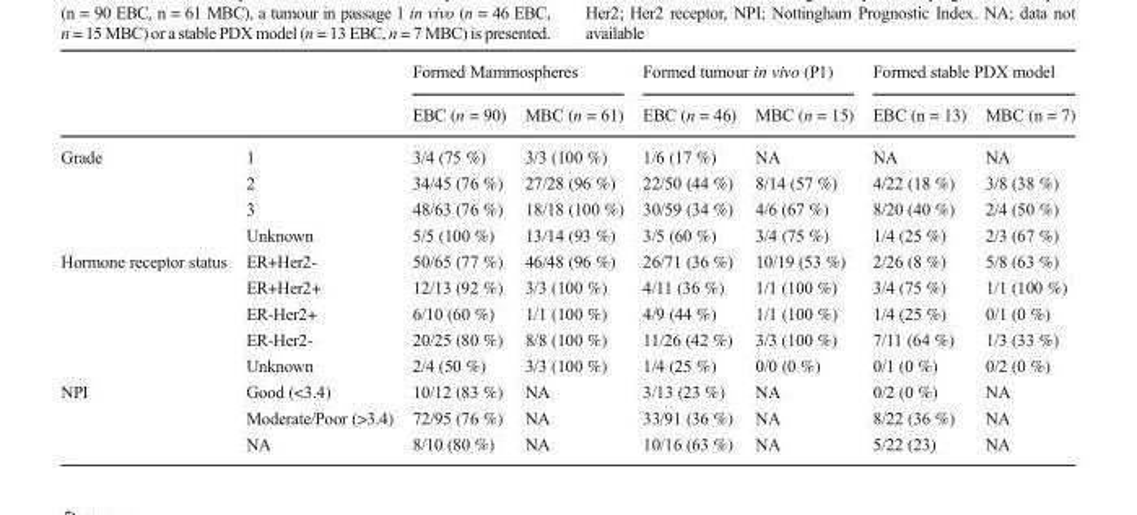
<table><thead><tr><td rowspan="2"></td><td rowspan="2"></td><td colspan="2">Formed Mammospheres</td><td colspan="2">Formed tumour in vivo (P1)</td><td colspan="2">Formed stable PDX model</td></tr><tr><td>EBC (n = 90)</td><td>MBC (n = 61)</td><td>EBC (n = 46)</td><td>MBC (n = 15)</td><td>EBC (n = 13)</td><td>MBC (n = 7)</td></tr></thead><tbody><tr><td rowspan="4">Grade</td><td>1</td><td>3/4 (75 %)</td><td>3/3 (100 %)</td><td>1/6 (17 %)</td><td>NA</td><td>NA</td><td>NA</td></tr><tr><td>2</td><td>34/45 (76 %)</td><td>27/28 (96 %)</td><td>22/50 (44 %)</td><td>8/14 (57 %)</td><td>4/22 (18 %)</td><td>3/8 (38 %)</td></tr><tr><td>3</td><td>48/63 (76 %)</td><td>18/18 (100 %)</td><td>30/59 (34 %)</td><td>4/6 (67 %)</td><td>8/20 (40 %)</td><td>2/4 (50 %)</td></tr><tr><td>Unknown</td><td>5/5 (100 %)</td><td>13/14 (93 %)</td><td>3/5 (60 %)</td><td>3/4 (75 %)</td><td>1/4 (25 %)</td><td>2/3 (67 %)</td></tr><tr><td rowspan="5">Hormone receptor status</td><td>ER+Her2-</td><td>50/65 (77 %)</td><td>46/48 (96 %)</td><td>26/71 (36 %)</td><td>10/19 (53 %)</td><td>2/26 (8 %)</td><td>5/8 (63 %)</td></tr><tr><td>ER+Her2+</td><td>12/13 (92 %)</td><td>3/3 (100 %)</td><td>4/11 (36 %)</td><td>1/1 (100 %)</td><td>3/4 (75 %)</td><td>1/1 (100 %)</td></tr><tr><td>ER-Her2+</td><td>6/10 (60 %)</td><td>1/1 (100 %)</td><td>4/9 (44 %)</td><td>1/1 (100 %)</td><td>1/4 (25 %)</td><td>0/1 (0 %)</td></tr><tr><td>ER-Her2-</td><td>20/25 (80 %)</td><td>8/8 (100 %)</td><td>11/26 (42 %)</td><td>3/3 (100 %)</td><td>7/11 (64 %)</td><td>1/3 (33 %)</td></tr><tr><td>Unknown</td><td>2/4 (50 %)</td><td>3/3 (100 %)</td><td>1/4 (25 %)</td><td>0/0 (0 %)</td><td>0/1 (0 %)</td><td>0/2 (0 %)</td></tr><tr><td rowspan="3">NPI</td><td>Good (&lt;3.4)</td><td>10/12 (83 %)</td><td>NA</td><td>3/13 (23 %)</td><td>NA</td><td>0/2 (0 %)</td><td>NA</td></tr><tr><td>Moderate/Poor (&gt;3.4)</td><td>72/95 (76 %)</td><td>NA</td><td>33/91 (36 %)</td><td>NA</td><td>8/22 (36 %)</td><td>NA</td></tr><tr><td>NA</td><td>8/10 (80 %)</td><td>NA</td><td>10/16 (63 %)</td><td>NA</td><td>5/22 (23)</td><td>NA</td></tr></tbody></table>